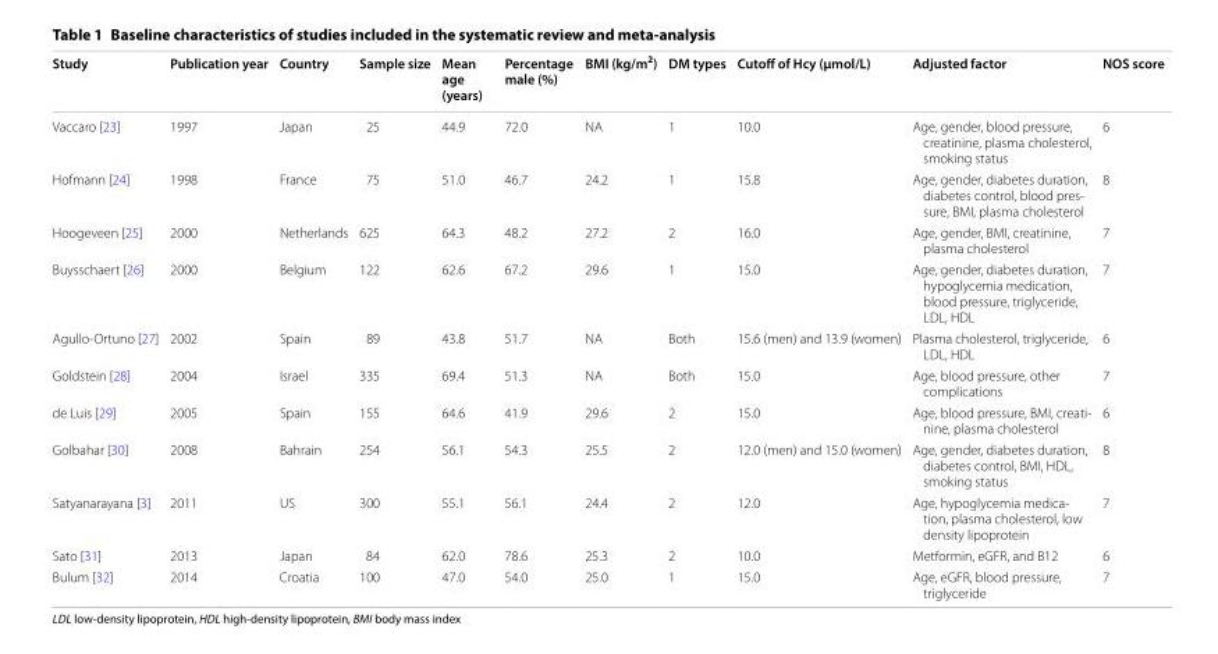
<table><thead><tr><td>Study</td><td>Publication year</td><td>Country</td><td>Sample size</td><td>Mean age (years)</td><td>Percentage male (%)</td><td>BMI (kg/m<sup>2</sup>)</td><td>DM types</td><td>Cutoff of Hcy (μmol/L)</td><td>Adjusted factor</td><td>NOS score</td></tr></thead><tbody><tr><td>Vaccaro [23]</td><td>1997</td><td>Japan</td><td>25</td><td>44.9</td><td>72.0</td><td>NA</td><td>1</td><td>10.0</td><td>Age, gender, blood pressure, creatinine, plasma cholesterol, smoking status</td><td>6</td></tr><tr><td>Hofmann [24]</td><td>1998</td><td>France</td><td>75</td><td>51.0</td><td>46.7</td><td>24.2</td><td>1</td><td>15.8</td><td>Age, gender, diabetes duration, diabetes control, blood pres- sure, BMI, plasma cholesterol</td><td>8</td></tr><tr><td>Hoogeveen [25]</td><td>2000</td><td>Netherlands</td><td>625</td><td>64.3</td><td>48.2</td><td>27.2</td><td>2</td><td>16.0</td><td>Age, gender, BMI, creatinine, plasma cholesterol</td><td>7</td></tr><tr><td>Buysschaert [26]</td><td>2000</td><td>Belgium</td><td>122</td><td>62.6</td><td>67.2</td><td>29.6</td><td>1</td><td>15.0</td><td>Age, gender, diabetes duration, hypoglycemia medication, blood pressure, triglyceride, LDL, HDL</td><td>7</td></tr><tr><td>Agullo-Ortuno [27]</td><td>2002</td><td>Spain</td><td>89</td><td>43.8</td><td>51.7</td><td>NA</td><td>Both</td><td>15.6 (men) and 13.9 (women)</td><td>Plasma cholesterol, triglyceride, LDL, HDL</td><td>6</td></tr><tr><td>Goldstein [28]</td><td>2004</td><td>Israel</td><td>335</td><td>69.4</td><td>51.3</td><td>NA</td><td>Both</td><td>15.0</td><td>Age, blood pressure, other complications</td><td>7</td></tr><tr><td>de Luis [29]</td><td>2005</td><td>Spain</td><td>155</td><td>64.6</td><td>41.9</td><td>29.6</td><td>2</td><td>15.0</td><td>Age, blood pressure, BMI, creati- nine, plasma cholesterol</td><td>6</td></tr><tr><td>Golbahar [30]</td><td>2008</td><td>Bahrain</td><td>254</td><td>56.1</td><td>54.3</td><td>25.5</td><td>2</td><td>12.0 (men) and 15.0 (women)</td><td>Age, gender, diabetes duration, diabetes control, BMI, HDL, smoking status</td><td>8</td></tr><tr><td>Satyanarayana [3]</td><td>2011</td><td>US</td><td>300</td><td>55.1</td><td>56.1</td><td>24.4</td><td>2</td><td>12.0</td><td>Age, hypoglycemia medica- tion, plasma cholesterol, low density lipoprotein</td><td>7</td></tr><tr><td>Sato [31]</td><td>2013</td><td>Japan</td><td>84</td><td>62.0</td><td>78.6</td><td>25.3</td><td>2</td><td>10.0</td><td>Metformin, eGFR, and B12</td><td>6</td></tr><tr><td>Bulum [32]</td><td>2014</td><td>Croatia</td><td>100</td><td>47.0</td><td>54.0</td><td>25.0</td><td>1</td><td>15.0</td><td>Age, eGFR, blood pressure, triglyceride</td><td>7</td></tr></tbody></table>